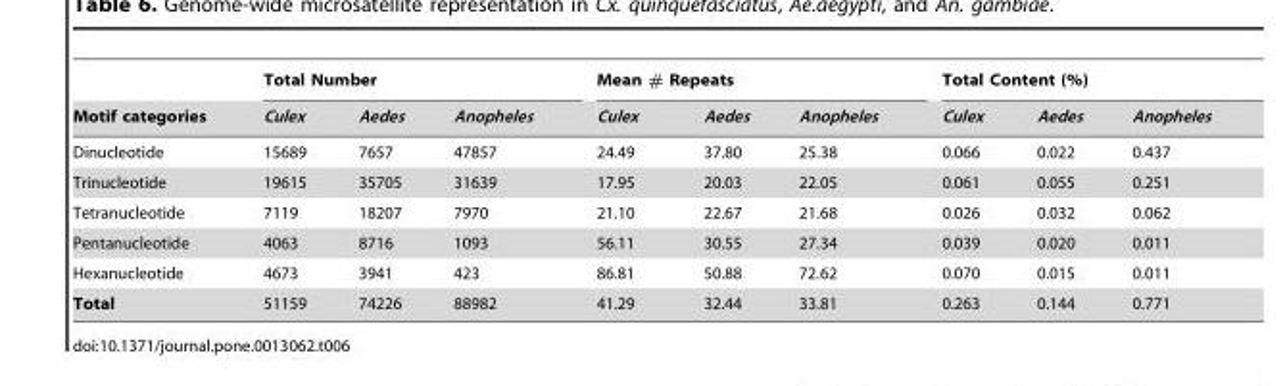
<table><thead><tr><td rowspan="2">Motif categories</td><td colspan="3">Total Number</td><td colspan="3">Mean # Repeats</td><td colspan="3">Total Content (%)</td></tr><tr><td>Culex</td><td>Aedes</td><td>Anopheles</td><td>Culex</td><td>Aedes</td><td>Anopheles</td><td>Culex</td><td>Aedes</td><td>Anopheles</td></tr></thead><tbody><tr><td>Dinucleotide</td><td>15689</td><td>7657</td><td>47857</td><td>24.49</td><td>37.80</td><td>25.38</td><td>0.066</td><td>0.022</td><td>0.437</td></tr><tr><td>Trinucleotide</td><td>19615</td><td>35705</td><td>31639</td><td>17.95</td><td>20.03</td><td>22.05</td><td>0.061</td><td>0.055</td><td>0.251</td></tr><tr><td>Tetranucleotide</td><td>7119</td><td>18207</td><td>7970</td><td>21.10</td><td>22.67</td><td>21.68</td><td>0.026</td><td>0.032</td><td>0.062</td></tr><tr><td>Pentanucleotide</td><td>4063</td><td>8716</td><td>1093</td><td>56.11</td><td>30.55</td><td>27.34</td><td>0.039</td><td>0.020</td><td>0.011</td></tr><tr><td>Hexanucleotide</td><td>4673</td><td>3941</td><td>423</td><td>86.81</td><td>50.88</td><td>72.62</td><td>0.070</td><td>0.015</td><td>0.011</td></tr><tr><td>Total</td><td>51159</td><td>74226</td><td>88982</td><td>41.29</td><td>32.44</td><td>33.81</td><td>0.263</td><td>0.144</td><td>0.771</td></tr></tbody></table>